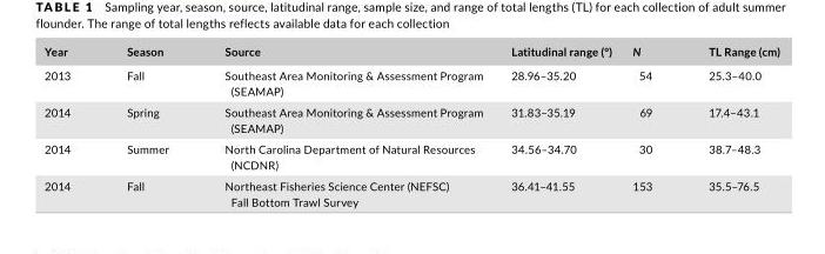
<table><thead><tr><td>Year</td><td>Season</td><td>Source</td><td>Latitudinal range (°)</td><td>N</td><td>TL Range (cm)</td></tr></thead><tbody><tr><td>2013</td><td>Fall</td><td>Southeast Area Monitoring &amp; Assessment Program (SEAMAP)</td><td>28.96–35.20</td><td>54</td><td>25.3–40.0</td></tr><tr><td>2014</td><td>Spring</td><td>Southeast Area Monitoring &amp; Assessment Program (SEAMAP)</td><td>31.83–35.19</td><td>69</td><td>17.4–43.1</td></tr><tr><td>2014</td><td>Summer</td><td>North Carolina Department of Natural Resources (NCDNR)</td><td>34.56–34.70</td><td>30</td><td>38.7–48.3</td></tr><tr><td>2014</td><td>Fall</td><td>Northeast Fisheries Science Center (NEFSC) Fall Bottom Trawl Survey</td><td>36.41–41.55</td><td>153</td><td>35.5–76.5</td></tr></tbody></table>